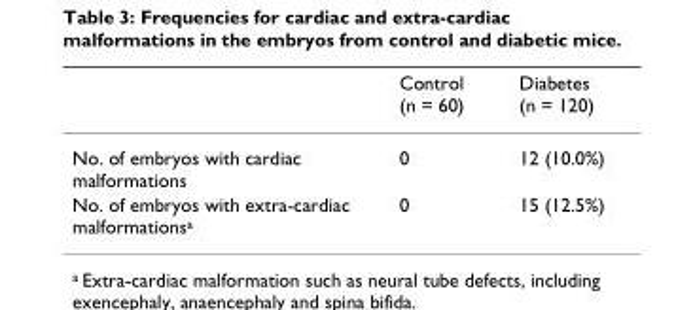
<table><thead><tr><td></td><td>Control (n = 60)</td><td>Diabetes (n = 120)</td></tr></thead><tbody><tr><td>No. of embryos with cardiac malformations</td><td>0</td><td>12 (10.0%)</td></tr><tr><td>No. of embryos with extra-cardiac malformations<sup>a</sup></td><td>0</td><td>15 (12.5%)</td></tr></tbody></table>